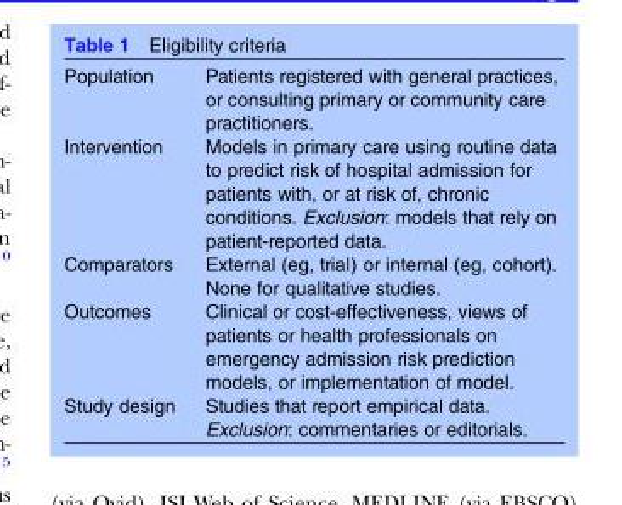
<table><tbody><tr><td>Population</td><td>Patients registered with general practices, or consulting primary or community care practitioners.</td></tr><tr><td>Intervention</td><td>Models in primary care using routine data to predict risk of hospital admission for patients with, or at risk of, chronic conditions. Exclusion: models that rely on patient-reported data.</td></tr><tr><td>Comparators</td><td>External (eg, trial) or internal (eg, cohort). None for qualitative studies.</td></tr><tr><td>Outcomes</td><td>Clinical or cost-effectiveness, views of patients or health professionals on emergency admission risk prediction models, or implementation of model.</td></tr><tr><td>Study design</td><td>Studies that report empirical data. Exclusion: commentaries or editorials.</td></tr></tbody></table>